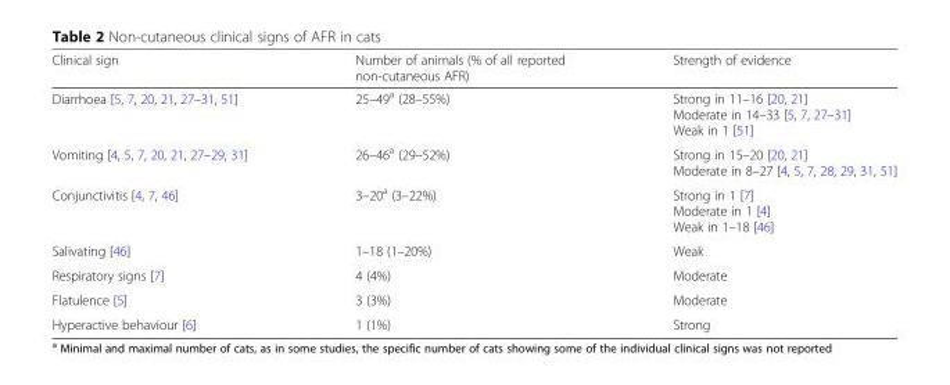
<table><thead><tr><td>Clinical sign</td><td>Number of animals (% of all reported non-cutaneous AFR)</td><td>Strength of evidence</td></tr></thead><tbody><tr><td>Diarrhoea [5, 7, 20, 21, 27–31, 51]</td><td>25–49<sup>a</sup> (28–55%)</td><td>Strong in 11–16 [20, 21] Moderate in 14–33 [5, 7, 27–31] Weak in 1 [51]</td></tr><tr><td>Vomiting [4, 5, 7, 20, 21, 27–29, 31]</td><td>26–46<sup>a</sup> (29–52%)</td><td>Strong in 15–20 [20, 21] Moderate in 8–27 [4, 5, 7, 28, 29, 31, 51]</td></tr><tr><td>Conjunctivitis [4, 7, 46]</td><td>3–20<sup>a</sup> (3–22%)</td><td>Strong in 1 [7] Moderate in 1 [4] Weak in 1–18 [46]</td></tr><tr><td>Salivating [46]</td><td>1–18 (1–20%)</td><td>Weak</td></tr><tr><td>Respiratory signs [7]</td><td>4 (4%)</td><td>Moderate</td></tr><tr><td>Flatulence [5]</td><td>3 (3%)</td><td>Moderate</td></tr><tr><td>Hyperactive behaviour [6]</td><td>1 (1%)</td><td>Strong</td></tr></tbody></table>